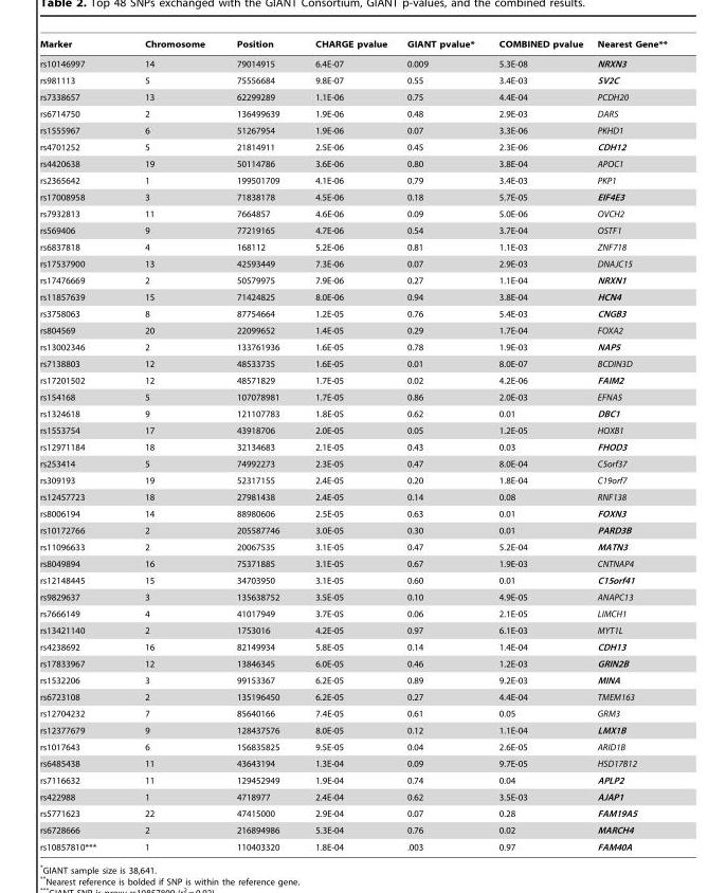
<table><thead><tr><td>Marker</td><td>Chromosome</td><td>Position</td><td>CHARGE pvalue</td><td>GIANT pvalue*</td><td>COMBINED pvalue</td><td>Nearest Gene**</td></tr></thead><tbody><tr><td>rs10146997</td><td>14</td><td>79014915</td><td>6.4E-07</td><td>0.009</td><td>5.3E-08</td><td>NRXN3</td></tr><tr><td>rs981113</td><td>5</td><td>75556684</td><td>9.8E-07</td><td>0.55</td><td>3.4E-03</td><td>SV2C</td></tr><tr><td>rs7338657</td><td>13</td><td>62299289</td><td>1.1E-06</td><td>0.75</td><td>4.4E-04</td><td>PCDH20</td></tr><tr><td>rs6714750</td><td>2</td><td>136499639</td><td>1.9E-06</td><td>0.48</td><td>2.9E-03</td><td>DARS</td></tr><tr><td>rs1555967</td><td>6</td><td>51267954</td><td>1.9E-06</td><td>0.07</td><td>3.3E-06</td><td>PKHD1</td></tr><tr><td>rs4701252</td><td>5</td><td>21814911</td><td>2.5E-06</td><td>0.45</td><td>2.3E-06</td><td>CDH12</td></tr><tr><td>rs4420638</td><td>19</td><td>50114786</td><td>3.6E-06</td><td>0.80</td><td>3.8E-04</td><td>APOC1</td></tr><tr><td>rs2365642</td><td>1</td><td>199501709</td><td>4.1E-06</td><td>0.79</td><td>3.4E-03</td><td>PKP1</td></tr><tr><td>rs17008958</td><td>3</td><td>71838178</td><td>4.5E-06</td><td>0.18</td><td>5.7E-05</td><td>EIF4E3</td></tr><tr><td>rs7932813</td><td>11</td><td>7664857</td><td>4.6E-06</td><td>0.09</td><td>5.0E-06</td><td>OVCH2</td></tr><tr><td>rs569406</td><td>9</td><td>77219165</td><td>4.7E-06</td><td>0.54</td><td>3.7E-04</td><td>OSTF1</td></tr><tr><td>rs6837818</td><td>4</td><td>168112</td><td>5.2E-06</td><td>0.81</td><td>1.1E-03</td><td>ZNF718</td></tr><tr><td>rs17537900</td><td>13</td><td>42593449</td><td>7.3E-06</td><td>0.07</td><td>2.9E-03</td><td>DNAJC15</td></tr><tr><td>rs17476669</td><td>2</td><td>50579975</td><td>7.9E-06</td><td>0.27</td><td>1.1E-04</td><td>NRXN1</td></tr><tr><td>rs11857639</td><td>15</td><td>71424825</td><td>8.0E-06</td><td>0.94</td><td>3.8E-04</td><td>HCN4</td></tr><tr><td>rs3758063</td><td>8</td><td>87754664</td><td>1.2E-05</td><td>0.76</td><td>5.4E-03</td><td>CNGB3</td></tr><tr><td>rs804569</td><td>20</td><td>22099652</td><td>1.4E-05</td><td>0.29</td><td>1.7E-04</td><td>FOXA2</td></tr><tr><td>rs13002346</td><td>2</td><td>133761936</td><td>1.6E-05</td><td>0.78</td><td>1.9E-03</td><td>NAP5</td></tr><tr><td>rs7138803</td><td>12</td><td>48533735</td><td>1.6E-05</td><td>0.01</td><td>8.0E-07</td><td>BCDIN3D</td></tr><tr><td>rs17201502</td><td>12</td><td>48571829</td><td>1.7E-05</td><td>0.02</td><td>4.2E-06</td><td>FAIM2</td></tr><tr><td>rs154168</td><td>5</td><td>107078981</td><td>1.7E-05</td><td>0.86</td><td>2.0E-03</td><td>EFNA5</td></tr><tr><td>rs1324618</td><td>9</td><td>121107783</td><td>1.8E-05</td><td>0.62</td><td>0.01</td><td>DBC1</td></tr><tr><td>rs1553754</td><td>17</td><td>43918706</td><td>2.0E-05</td><td>0.05</td><td>1.2E-05</td><td>HOXB1</td></tr><tr><td>rs12971184</td><td>18</td><td>32134683</td><td>2.1E-05</td><td>0.43</td><td>0.03</td><td>FHOD3</td></tr><tr><td>rs253414</td><td>5</td><td>74992273</td><td>2.3E-05</td><td>0.47</td><td>8.0E-04</td><td>C5orf37</td></tr><tr><td>rs309193</td><td>19</td><td>52317155</td><td>2.4E-05</td><td>0.20</td><td>1.8E-04</td><td>C19orf7</td></tr><tr><td>rs12457723</td><td>18</td><td>27981438</td><td>2.4E-05</td><td>0.14</td><td>0.08</td><td>RNF138</td></tr><tr><td>rs8006194</td><td>14</td><td>88980606</td><td>2.5E-05</td><td>0.63</td><td>0.01</td><td>FOXN3</td></tr><tr><td>rs10172766</td><td>2</td><td>205587746</td><td>3.0E-05</td><td>0.30</td><td>0.01</td><td>PARD3B</td></tr><tr><td>rs11096633</td><td>2</td><td>20067535</td><td>3.1E-05</td><td>0.47</td><td>5.2E-04</td><td>MATN3</td></tr><tr><td>rs8049894</td><td>16</td><td>75371885</td><td>3.1E-05</td><td>0.67</td><td>1.9E-03</td><td>CNTNAP4</td></tr><tr><td>rs12148445</td><td>15</td><td>34703950</td><td>3.1E-05</td><td>0.60</td><td>0.01</td><td>C15orf41</td></tr><tr><td>rs9829637</td><td>3</td><td>135638752</td><td>3.5E-05</td><td>0.10</td><td>4.9E-05</td><td>ANAPC13</td></tr><tr><td>rs7666149</td><td>4</td><td>41017949</td><td>3.7E-05</td><td>0.06</td><td>2.1E-05</td><td>LIMCH1</td></tr><tr><td>rs13421140</td><td>2</td><td>1753016</td><td>4.2E-05</td><td>0.97</td><td>6.1E-03</td><td>MYT1L</td></tr><tr><td>rs4238692</td><td>16</td><td>82149934</td><td>5.8E-05</td><td>0.14</td><td>1.4E-04</td><td>CDH13</td></tr><tr><td>rs17833967</td><td>12</td><td>13846345</td><td>6.0E-05</td><td>0.46</td><td>1.2E-03</td><td>GRIN2B</td></tr><tr><td>rs1532206</td><td>3</td><td>99153367</td><td>6.2E-05</td><td>0.89</td><td>9.2E-03</td><td>MINA</td></tr><tr><td>rs6723108</td><td>2</td><td>135196450</td><td>6.2E-05</td><td>0.27</td><td>4.4E-04</td><td>TMEM163</td></tr><tr><td>rs12704232</td><td>7</td><td>85640166</td><td>7.4E-05</td><td>0.61</td><td>0.05</td><td>GRM3</td></tr><tr><td>rs12377679</td><td>9</td><td>128437576</td><td>8.0E-05</td><td>0.12</td><td>1.1E-04</td><td>LMX1B</td></tr><tr><td>rs1017643</td><td>6</td><td>156835825</td><td>9.5E-05</td><td>0.04</td><td>2.6E-05</td><td>ARID1B</td></tr><tr><td>rs6485438</td><td>11</td><td>43643194</td><td>1.3E-04</td><td>0.09</td><td>9.7E-05</td><td>HSD17B12</td></tr><tr><td>rs7116632</td><td>11</td><td>129452949</td><td>1.9E-04</td><td>0.74</td><td>0.04</td><td>APLP2</td></tr><tr><td>rs422988</td><td>1</td><td>4718977</td><td>2.4E-04</td><td>0.62</td><td>3.5E-03</td><td>AJAP1</td></tr><tr><td>rs5771623</td><td>22</td><td>47415000</td><td>2.9E-04</td><td>0.07</td><td>0.28</td><td>FAM19A5</td></tr><tr><td>rs6728666</td><td>2</td><td>216894986</td><td>5.3E-04</td><td>0.76</td><td>0.02</td><td>MARCH4</td></tr><tr><td>rs10857810***</td><td>1</td><td>110403320</td><td>1.8E-04</td><td>.003</td><td>0.97</td><td>FAM40A</td></tr></tbody></table>